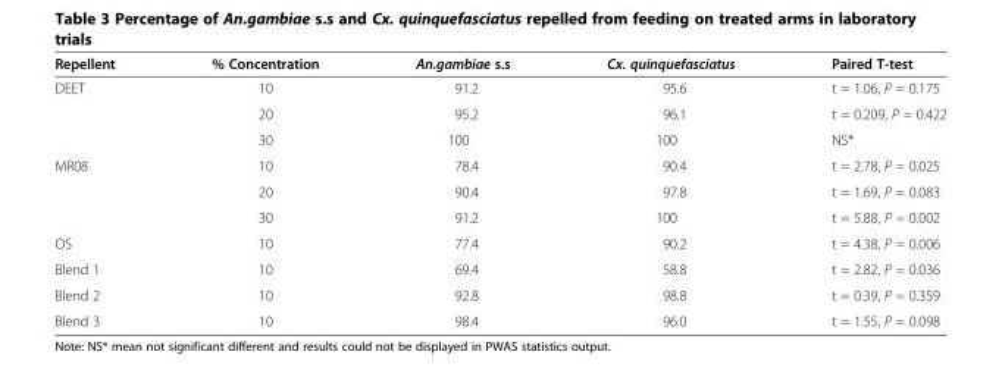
<table><thead><tr><td>Repellent</td><td>% Concentration</td><td>An.gambiae s.s</td><td>Cx. quinquefasciatus</td><td>Paired T-test</td></tr></thead><tbody><tr><td rowspan="3">DEET</td><td>10</td><td>91.2</td><td>95.6</td><td>t = 1.06, P = 0.175</td></tr><tr><td>20</td><td>95.2</td><td>96.1</td><td>t = 0.209, P = 0.422</td></tr><tr><td>30</td><td>100</td><td>100</td><td>NS*</td></tr><tr><td rowspan="3">MR08</td><td>10</td><td>78.4</td><td>90.4</td><td>t = 2.78, P = 0.025</td></tr><tr><td>20</td><td>90.4</td><td>97.8</td><td>t = 1.69, P = 0.083</td></tr><tr><td>30</td><td>91.2</td><td>100</td><td>t = 5.88, P = 0.002</td></tr><tr><td>OS</td><td>10</td><td>77.4</td><td>90.2</td><td>t = 4.38, P = 0.006</td></tr><tr><td>Blend 1</td><td>10</td><td>69.4</td><td>58.8</td><td>t = 2.82, P = 0.036</td></tr><tr><td>Blend 2</td><td>10</td><td>92.8</td><td>98.8</td><td>t = 0.39, P = 0.359</td></tr><tr><td>Blend 3</td><td>10</td><td>98.4</td><td>96.0</td><td>t = 1.55, P = 0.098</td></tr></tbody></table>